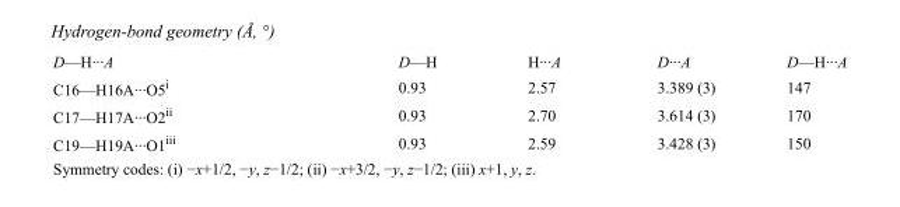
<table><tbody><tr><td>D—H···A</td><td>D—H</td><td>H···A</td><td>D···A</td><td>D—H···A</td></tr><tr><td>C16—H16A···O5<sup>i</sup></td><td>0.93</td><td>2.57</td><td>3.389 (3)</td><td>147</td></tr><tr><td>C17—H17A···O2<sup>ii</sup></td><td>0.93</td><td>2.70</td><td>3.614 (3)</td><td>170</td></tr><tr><td>C19—H19A···O1<sup>iii</sup></td><td>0.93</td><td>2.59</td><td>3.428 (3)</td><td>150</td></tr></tbody></table>